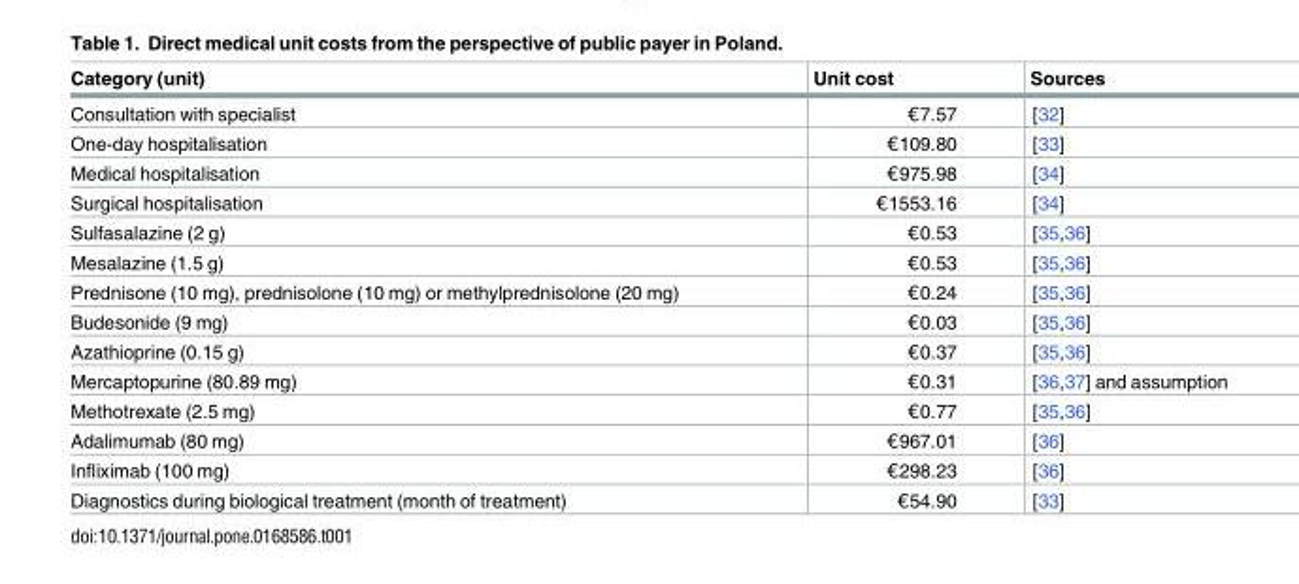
<table><thead><tr><td>Category (unit)</td><td>Unit cost</td><td>Sources</td></tr></thead><tbody><tr><td>Consultation with specialist</td><td>€7.57</td><td>[32]</td></tr><tr><td>One-day hospitalisation</td><td>€109.80</td><td>[33]</td></tr><tr><td>Medical hospitalisation</td><td>€975.98</td><td>[34]</td></tr><tr><td>Surgical hospitalisation</td><td>€1553.16</td><td>[34]</td></tr><tr><td>Sulfasalazine (2 g)</td><td>€0.53</td><td>[35,36]</td></tr><tr><td>Mesalazine (1.5 g)</td><td>€0.53</td><td>[35,36]</td></tr><tr><td>Prednisone (10 mg), prednisolone (10 mg) or methylprednisolone (20 mg)</td><td>€0.24</td><td>[35,36]</td></tr><tr><td>Budesonide (9 mg)</td><td>€0.03</td><td>[35,36]</td></tr><tr><td>Azathioprine (0.15 g)</td><td>€0.37</td><td>[35,36]</td></tr><tr><td>Mercaptopurine (80.89 mg)</td><td>€0.31</td><td>[36,37] and assumption</td></tr><tr><td>Methotrexate (2.5 mg)</td><td>€0.77</td><td>[35,36]</td></tr><tr><td>Adalimumab (80 mg)</td><td>€967.01</td><td>[36]</td></tr><tr><td>Infliximab (100 mg)</td><td>€298.23</td><td>[36]</td></tr><tr><td>Diagnostics during biological treatment (month of treatment)</td><td>€54.90</td><td>[33]</td></tr></tbody></table>